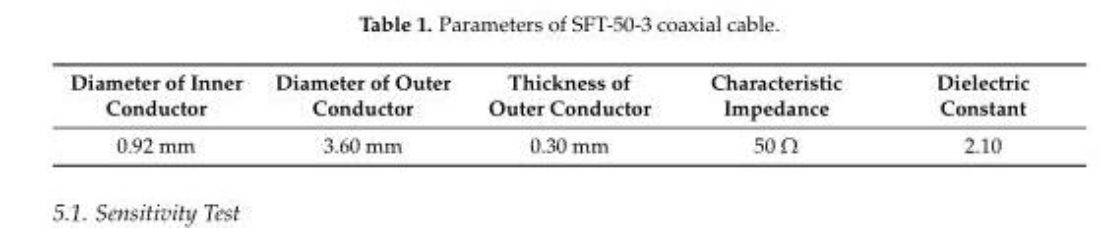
<table><thead><tr><td>Diameter of Inner Conductor</td><td>Diameter of Outer Conductor</td><td>Thickness of Outer Conductor</td><td>Characteristic Impedance</td><td>Dielectric Constant</td></tr></thead><tbody><tr><td>0.92 mm</td><td>3.60 mm</td><td>0.30 mm</td><td>50 Ω</td><td>2.10</td></tr></tbody></table>